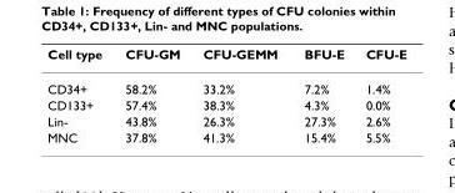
<table><thead><tr><td>Cell type</td><td>CFU-GM</td><td>CFU-GEMM</td><td>BFU-E</td><td>CFU-E</td></tr></thead><tbody><tr><td>CD34+</td><td>58.2%</td><td>33.2%</td><td>7.2%</td><td>1.4%</td></tr><tr><td>CD133+</td><td>57.4%</td><td>38.3%</td><td>4.3%</td><td>0.0%</td></tr><tr><td>Lin-</td><td>43.8%</td><td>26.3%</td><td>27.3%</td><td>2.6%</td></tr><tr><td>MNC</td><td>37.8%</td><td>41.3%</td><td>15.4%</td><td>5.5%</td></tr></tbody></table>